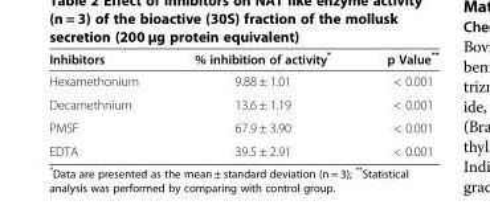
<table><thead><tr><td>Inhibitors</td><td>% inhibition of activity*</td><td>p Value**</td></tr></thead><tbody><tr><td>Hexamethonium</td><td>9.88 ± 1.01</td><td>&lt; 0.001</td></tr><tr><td>Decamethnium</td><td>13.6 ± 1.19</td><td>&lt; 0.001</td></tr><tr><td>PMSF</td><td>67.9 ± 3.90</td><td>&lt; 0.001</td></tr><tr><td>EDTA</td><td>39.5 ± 2.91</td><td>&lt; 0.001</td></tr></tbody></table>